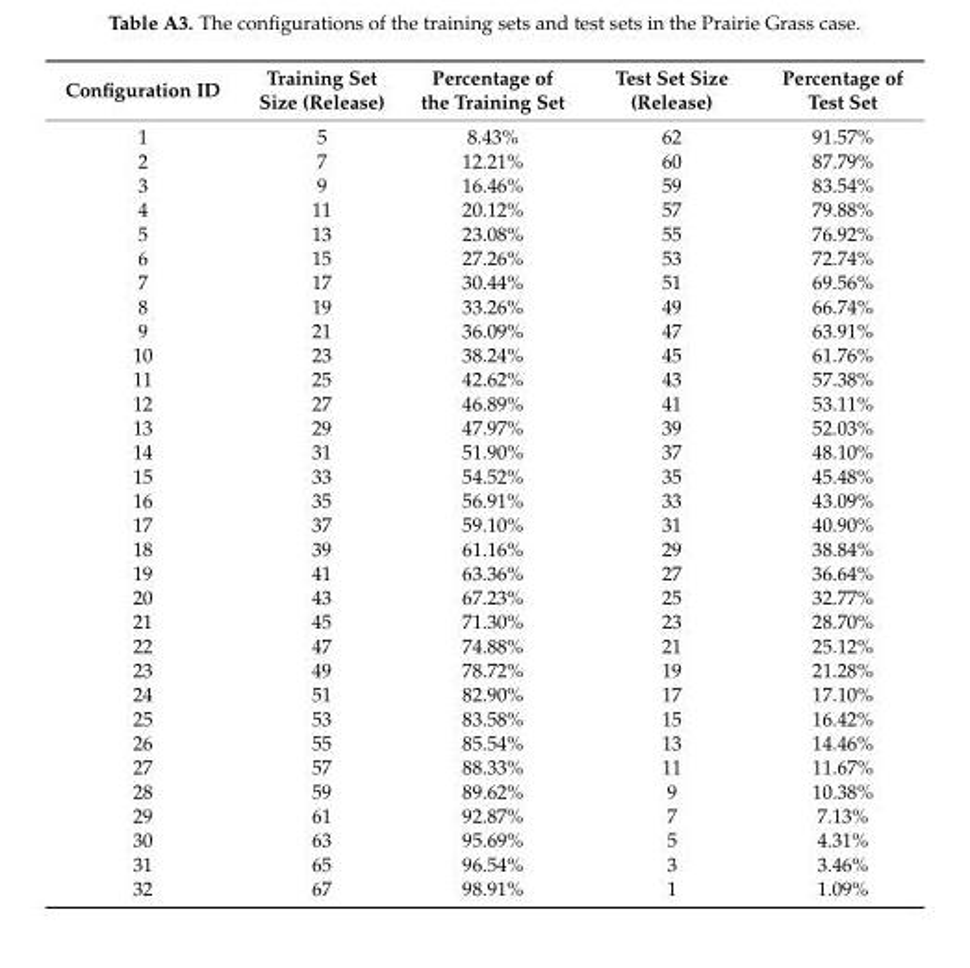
<table><thead><tr><td>Configuration ID</td><td>Training Set Size (Release)</td><td>Percentage of the Training Set</td><td>Test Set Size (Release)</td><td>Percentage of Test Set</td></tr></thead><tbody><tr><td>1</td><td>5</td><td>8.43%</td><td>62</td><td>91.57%</td></tr><tr><td>2</td><td>7</td><td>12.21%</td><td>60</td><td>87.79%</td></tr><tr><td>3</td><td>9</td><td>16.46%</td><td>59</td><td>83.54%</td></tr><tr><td>4</td><td>11</td><td>20.12%</td><td>57</td><td>79.88%</td></tr><tr><td>5</td><td>13</td><td>23.08%</td><td>55</td><td>76.92%</td></tr><tr><td>6</td><td>15</td><td>27.26%</td><td>53</td><td>72.74%</td></tr><tr><td>7</td><td>17</td><td>30.44%</td><td>51</td><td>69.56%</td></tr><tr><td>8</td><td>19</td><td>33.26%</td><td>49</td><td>66.74%</td></tr><tr><td>9</td><td>21</td><td>36.09%</td><td>47</td><td>63.91%</td></tr><tr><td>10</td><td>23</td><td>38.24%</td><td>45</td><td>61.76%</td></tr><tr><td>11</td><td>25</td><td>42.62%</td><td>43</td><td>57.38%</td></tr><tr><td>12</td><td>27</td><td>46.89%</td><td>41</td><td>53.11%</td></tr><tr><td>13</td><td>29</td><td>47.97%</td><td>39</td><td>52.03%</td></tr><tr><td>14</td><td>31</td><td>51.90%</td><td>37</td><td>48.10%</td></tr><tr><td>15</td><td>33</td><td>54.52%</td><td>35</td><td>45.48%</td></tr><tr><td>16</td><td>35</td><td>56.91%</td><td>33</td><td>43.09%</td></tr><tr><td>17</td><td>37</td><td>59.10%</td><td>31</td><td>40.90%</td></tr><tr><td>18</td><td>39</td><td>61.16%</td><td>29</td><td>38.84%</td></tr><tr><td>19</td><td>41</td><td>63.36%</td><td>27</td><td>36.64%</td></tr><tr><td>20</td><td>43</td><td>67.23%</td><td>25</td><td>32.77%</td></tr><tr><td>21</td><td>45</td><td>71.30%</td><td>23</td><td>28.70%</td></tr><tr><td>22</td><td>47</td><td>74.88%</td><td>21</td><td>25.12%</td></tr><tr><td>23</td><td>49</td><td>78.72%</td><td>19</td><td>21.28%</td></tr><tr><td>24</td><td>51</td><td>82.90%</td><td>17</td><td>17.10%</td></tr><tr><td>25</td><td>53</td><td>83.58%</td><td>15</td><td>16.42%</td></tr><tr><td>26</td><td>55</td><td>85.54%</td><td>13</td><td>14.46%</td></tr><tr><td>27</td><td>57</td><td>88.33%</td><td>11</td><td>11.67%</td></tr><tr><td>28</td><td>59</td><td>89.62%</td><td>9</td><td>10.38%</td></tr><tr><td>29</td><td>61</td><td>92.87%</td><td>7</td><td>7.13%</td></tr><tr><td>30</td><td>63</td><td>95.69%</td><td>5</td><td>4.31%</td></tr><tr><td>31</td><td>65</td><td>96.54%</td><td>3</td><td>3.46%</td></tr><tr><td>32</td><td>67</td><td>98.91%</td><td>1</td><td>1.09%</td></tr></tbody></table>